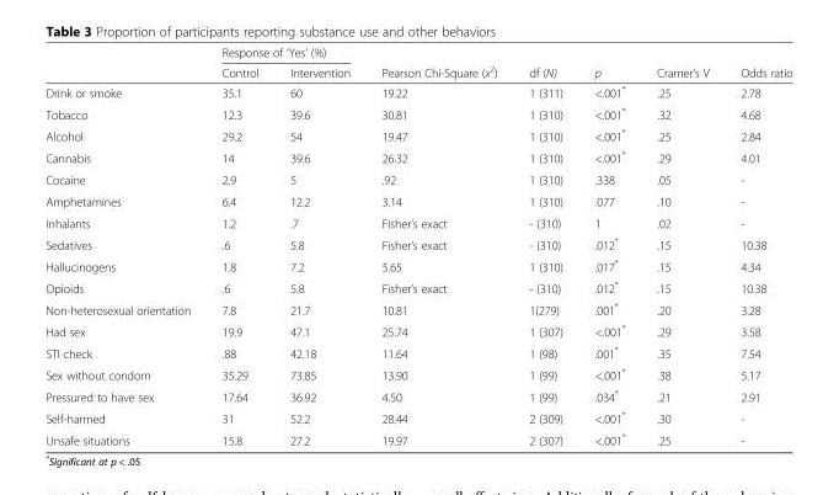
<table><thead><tr><td rowspan="2"></td><td colspan="2">Response of ‘Yes’ (%)</td><td rowspan="2">Pearson Chi-Square (x<sup>2</sup>)</td><td rowspan="2">df (N)</td><td rowspan="2">p</td><td rowspan="2">Cramer’s V</td><td rowspan="2">Odds ratio</td></tr><tr><td>Control</td><td>Intervention</td></tr></thead><tbody><tr><td>Drink or smoke</td><td>35.1</td><td>60</td><td>19.22</td><td>1 (311)</td><td>&lt;.001*</td><td>.25</td><td>2.78</td></tr><tr><td>Tobacco</td><td>12.3</td><td>39.6</td><td>30.81</td><td>1 (310)</td><td>&lt;.001*</td><td>.32</td><td>4.68</td></tr><tr><td>Alcohol</td><td>29.2</td><td>54</td><td>19.47</td><td>1 (310)</td><td>&lt;.001*</td><td>.25</td><td>2.84</td></tr><tr><td>Cannabis</td><td>14</td><td>39.6</td><td>26.32</td><td>1 (310)</td><td>&lt;.001*</td><td>.29</td><td>4.01</td></tr><tr><td>Cocaine</td><td>2.9</td><td>5</td><td>.92</td><td>1 (310)</td><td>.338</td><td>.05</td><td>-</td></tr><tr><td>Amphetamines</td><td>6.4</td><td>12.2</td><td>3.14</td><td>1 (310)</td><td>.077</td><td>.10</td><td>-</td></tr><tr><td>Inhalants</td><td>1.2</td><td>.7</td><td>Fisher’s exact</td><td>- (310)</td><td>1</td><td>.02</td><td>-</td></tr><tr><td>Sedatives</td><td>.6</td><td>5.8</td><td>Fisher’s exact</td><td>- (310)</td><td>.012*</td><td>.15</td><td>10.38</td></tr><tr><td>Hallucinogens</td><td>1.8</td><td>7.2</td><td>5.65</td><td>1 (310)</td><td>.017*</td><td>.15</td><td>4.34</td></tr><tr><td>Opioids</td><td>.6</td><td>5.8</td><td>Fisher’s exact</td><td>- (310)</td><td>.012*</td><td>.15</td><td>10.38</td></tr><tr><td>Non-heterosexual orientation</td><td>7.8</td><td>21.7</td><td>10.81</td><td>1(279)</td><td>.001*</td><td>.20</td><td>3.28</td></tr><tr><td>Had sex</td><td>19.9</td><td>47.1</td><td>25.74</td><td>1 (307)</td><td>&lt;.001*</td><td>.29</td><td>3.58</td></tr><tr><td>STI check</td><td>.88</td><td>42.18</td><td>11.64</td><td>1 (98)</td><td>.001*</td><td>.35</td><td>7.54</td></tr><tr><td>Sex without condom</td><td>35.29</td><td>73.85</td><td>13.90</td><td>1 (99)</td><td>&lt;.001*</td><td>.38</td><td>5.17</td></tr><tr><td>Pressured to have sex</td><td>17.64</td><td>36.92</td><td>4.50</td><td>1 (99)</td><td>.034*</td><td>.21</td><td>2.91</td></tr><tr><td>Self-harmed</td><td>31</td><td>52.2</td><td>28.44</td><td>2 (309)</td><td>&lt;.001*</td><td>.30</td><td>-</td></tr><tr><td>Unsafe situations</td><td>15.8</td><td>27.2</td><td>19.97</td><td>2 (307)</td><td>&lt;.001*</td><td>.25</td><td>-</td></tr></tbody></table>